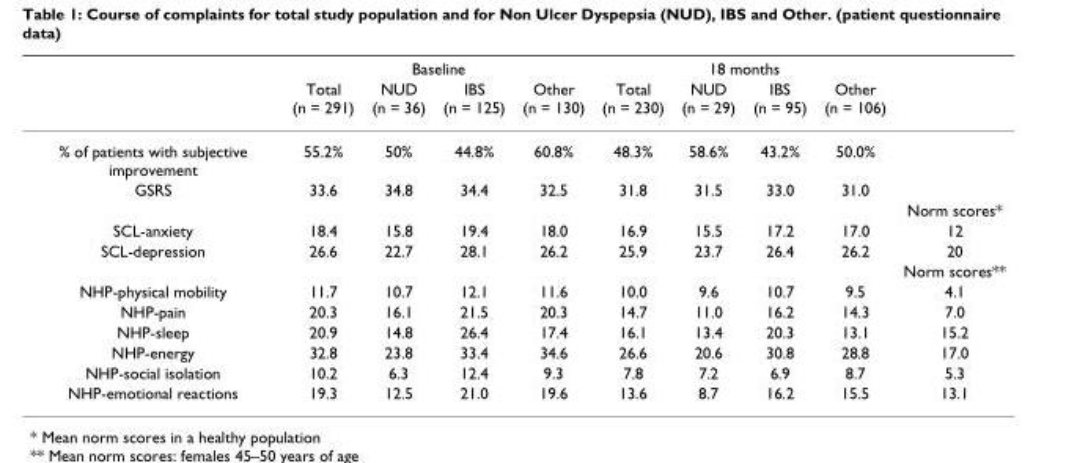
<table><thead><tr><td rowspan="2"></td><td colspan="4">Baseline</td><td colspan="4">18 months</td><td rowspan="2"></td></tr><tr><td>Total (n = 291)</td><td>NUD (n = 36)</td><td>IBS (n = 125)</td><td>Other (n = 130)</td><td>Total (n = 230)</td><td>NUD (n = 29)</td><td>IBS (n = 95)</td><td>Other (n = 106)</td></tr></thead><tbody><tr><td>% of patients with subjective improvement</td><td>55.2%</td><td>50%</td><td>44.8%</td><td>60.8%</td><td>48.3%</td><td>58.6%</td><td>43.2%</td><td>50.0%</td><td></td></tr><tr><td rowspan="2">GSRS</td><td>33.6</td><td>34.8</td><td>34.4</td><td>32.5</td><td>31.8</td><td>31.5</td><td>33.0</td><td>31.0</td><td></td></tr><tr><td></td><td></td><td></td><td></td><td></td><td></td><td></td><td></td><td>Norm scores*</td></tr><tr><td>SCL-anxiety</td><td>18.4</td><td>15.8</td><td>19.4</td><td>18.0</td><td>16.9</td><td>15.5</td><td>17.2</td><td>17.0</td><td>12</td></tr><tr><td rowspan="2">SCL-depression</td><td>26.6</td><td>22.7</td><td>28.1</td><td>26.2</td><td>25.9</td><td>23.7</td><td>26.4</td><td>26.2</td><td>20</td></tr><tr><td></td><td></td><td></td><td></td><td></td><td></td><td></td><td></td><td>Norm scores**</td></tr><tr><td>NHP-physical mobility</td><td>11.7</td><td>10.7</td><td>12.1</td><td>11.6</td><td>10.0</td><td>9.6</td><td>10.7</td><td>9.5</td><td>4.1</td></tr><tr><td>NHP-pain</td><td>20.3</td><td>16.1</td><td>21.5</td><td>20.3</td><td>14.7</td><td>11.0</td><td>16.2</td><td>14.3</td><td>7.0</td></tr><tr><td>NHP-sleep</td><td>20.9</td><td>14.8</td><td>26.4</td><td>17.4</td><td>16.1</td><td>13.4</td><td>20.3</td><td>13.1</td><td>15.2</td></tr><tr><td>NHP-energy</td><td>32.8</td><td>23.8</td><td>33.4</td><td>34.6</td><td>26.6</td><td>20.6</td><td>30.8</td><td>28.8</td><td>17.0</td></tr><tr><td>NHP-social isolation</td><td>10.2</td><td>6.3</td><td>12.4</td><td>9.3</td><td>7.8</td><td>7.2</td><td>6.9</td><td>8.7</td><td>5.3</td></tr><tr><td>NHP-emotional reactions</td><td>19.3</td><td>12.5</td><td>21.0</td><td>19.6</td><td>13.6</td><td>8.7</td><td>16.2</td><td>15.5</td><td>13.1</td></tr></tbody></table>